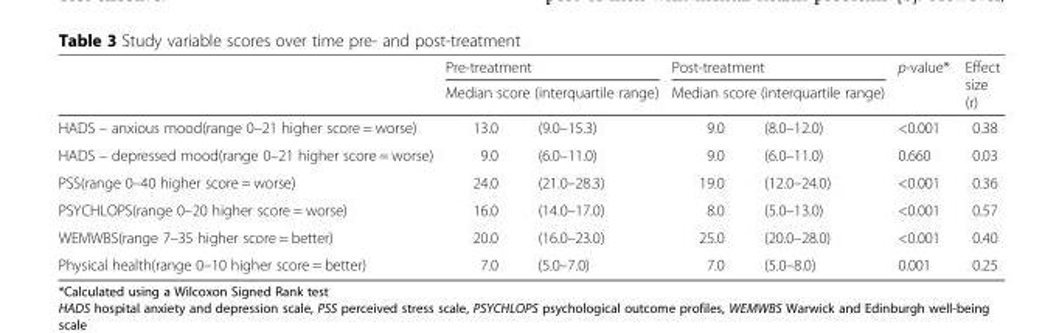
<table><thead><tr><td rowspan="3">HADS – anxious mood(range 0–21 higher score = worse)</td><td rowspan="2" colspan="2">Pre-treatment Median score (interquartile range)</td><td rowspan="2" colspan="2">Post-treatment Median score (interquartile range)</td><td rowspan="3">p-value* &lt;0.001</td><td rowspan="3">Effect size (r) 0.38</td></tr><tr></tr><tr><td>13.0</td><td>(9.0–15.3)</td><td>9.0</td><td>(8.0–12.0)</td></tr></thead><tbody><tr><td>HADS – depressed mood(range 0–21 higher score = worse)</td><td>9.0</td><td>(6.0–11.0)</td><td>9.0</td><td>(6.0–11.0)</td><td>0.660</td><td>0.03</td></tr><tr><td>PSS(range 0–40 higher score = worse)</td><td>24.0</td><td>(21.0–28.3)</td><td>19.0</td><td>(12.0–24.0)</td><td>&lt;0.001</td><td>0.36</td></tr><tr><td>PSYCHLOPS(range 0–20 higher score = worse)</td><td>16.0</td><td>(14.0–17.0)</td><td>8.0</td><td>(5.0–13.0)</td><td>&lt;0.001</td><td>0.57</td></tr><tr><td>WEMWBS(range 7–35 higher score = better)</td><td>20.0</td><td>(16.0–23.0)</td><td>25.0</td><td>(20.0–28.0)</td><td>&lt;0.001</td><td>0.40</td></tr><tr><td>Physical health(range 0–10 higher score = better)</td><td>7.0</td><td>(5.0–7.0)</td><td>7.0</td><td>(5.0–8.0)</td><td>0.001</td><td>0.25</td></tr></tbody></table>